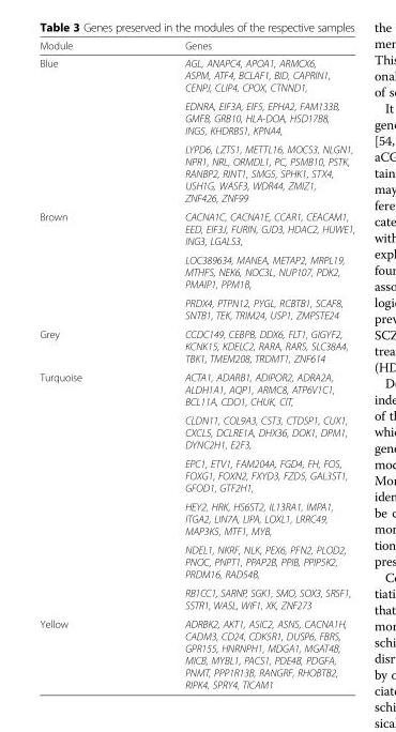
<table><thead><tr><td>Module</td><td>Genes</td></tr></thead><tbody><tr><td rowspan="3">Blue</td><td>AGL, ANAPC4, APOA1, ARMCX6, ASPM, ATF4, BCLAF1, BID, CAPRIN1, CENPJ, CLIP4, CPOX, CTNND1,</td></tr><tr><td>EDNRA, EIF3A, EIF5, EPHA2, FAM133B, GMFB, GRB10, HLA-DOA, HSD17B8, ING5, KHDRBS1, KPNA4,</td></tr><tr><td>LYPD6, LZTS1, METTL16, MOCS3, NLGN1, NPR1, NRL, ORMDL1, PC, PSMB10, PSTK, RANBP2, RINT1, SMG5, SPHK1, STX4, USH1G, WASF3, WDR44, ZMIZ1, ZNF426, ZNF99</td></tr><tr><td rowspan="3">Brown</td><td>CACNA1C, CACNA1E, CCAR1, CEACAM1, EED, EIF3J, FURIN, GJD3, HDAC2, HUWE1, ING3, LGALS3,</td></tr><tr><td>LOC389634, MANEA, METAP2, MRPL19, MTHFS, NEK6, NOC3L, NUP107, PDK2, PMAIP1, PPM1B,</td></tr><tr><td>PRDX4, PTPN12, PYGL, RCBTB1, SCAF8, SNTB1, TEK, TRIM24, USP1, ZMPSTE24</td></tr><tr><td>Grey</td><td>CCDC149, CEBPB, DDX6, FLT1, GIGYF2, KCNK15, KDELC2, RARA, RARS, SLC38A4, TBK1, TMEM208, TRDMT1, ZNF614</td></tr><tr><td rowspan="6">Turquoise</td><td>ACTA1, ADARB1, ADIPOR2, ADRA2A, ALDH1A1, AQP1, ARMC8, ATP6V1C1, BCL11A, CDO1, CHUK, CIT,</td></tr><tr><td>CLDN11, COL9A3, CST3, CTDSP1, CUX1, CXCL5, DCLRE1A, DHX36, DOK1, DPM1, DYNC2H1, E2F3,</td></tr><tr><td>EPC1, ETV1, FAM204A, FGD4, FH, FOS, FOXG1, FOXN2, FXYD3, FZD5, GAL3ST1, GFOD1, GTF2H1,</td></tr><tr><td>HEY2, HRK, HS6ST2, IL13RA1, IMPA1, ITGA2, LIN7A, LIPA, LOXL1, LRRC49, MAP3K5, MTF1, MYB,</td></tr><tr><td>NDEL1, NKRF, NLK, PEX6, PFN2, PLOD2, PNOC, PNPT1, PPAP2B, PPIB, PPIP5K2, PRDM16, RAD54B,</td></tr><tr><td>RB1CC1, SARNP, SGK1, SMO, SOX3, SRSF1, SSTR1, WASL, WIF1, XK, ZNF273</td></tr><tr><td>Yellow</td><td>ADRBK2, AKT1, ASIC2, ASNS, CACNA1H, CADM3, CD24, CDK5R1, DUSP6, FBRS, GPR155, HNRNPH1, MDGA1, MGAT4B, MICB, MYBL1, PACS1, PDE4B, PDGFA, PNMT, PPP1R13B, RANGRF, RHOBTB2, RIPK4, SPRY4, TICAM1</td></tr></tbody></table>